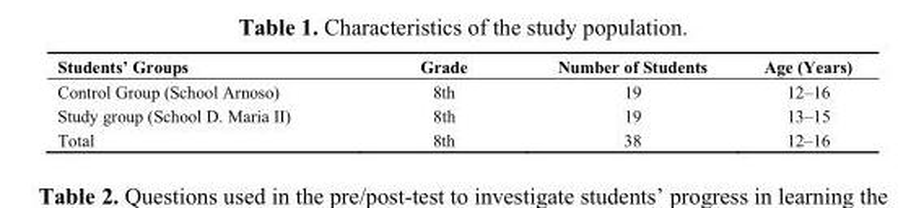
<table><thead><tr><td>Students’ Groups</td><td>Grade</td><td>Number of Students</td><td>Age (Years)</td></tr></thead><tbody><tr><td>Control Group (School Arnoso)</td><td>8th</td><td>19</td><td>12–16</td></tr><tr><td>Study group (School D. Maria II)</td><td>8th</td><td>19</td><td>13–15</td></tr><tr><td>Total</td><td>8th</td><td>38</td><td>12–16</td></tr></tbody></table>